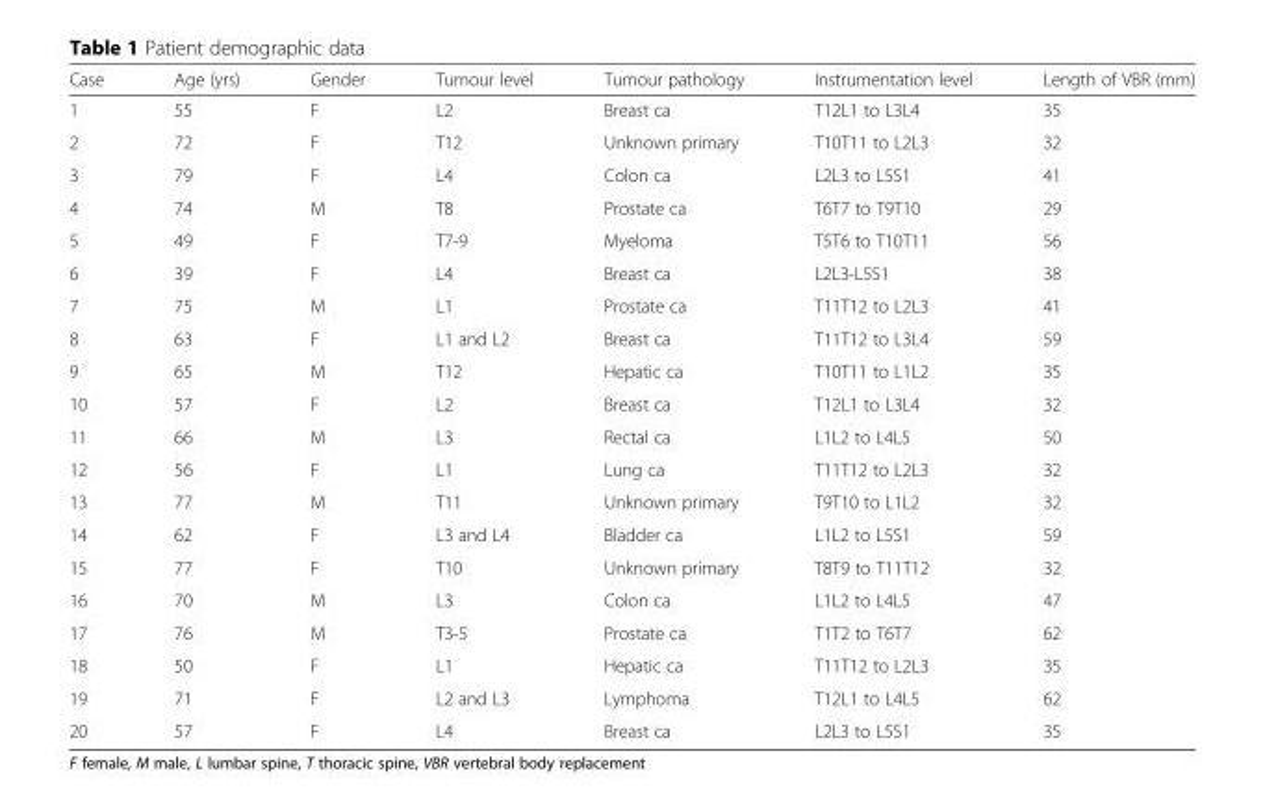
<table><thead><tr><td>Case</td><td>Age (yrs)</td><td>Gender</td><td>Tumour level</td><td>Tumour pathology</td><td>Instrumentation level</td><td>Length of VBR (mm)</td></tr></thead><tbody><tr><td>1</td><td>55</td><td>F</td><td>L2</td><td>Breast ca</td><td>T12L1 to L3L4</td><td>35</td></tr><tr><td>2</td><td>72</td><td>F</td><td>T12</td><td>Unknown primary</td><td>T10T11 to L2L3</td><td>32</td></tr><tr><td>3</td><td>79</td><td>F</td><td>L4</td><td>Colon ca</td><td>L2L3 to L5S1</td><td>41</td></tr><tr><td>4</td><td>74</td><td>M</td><td>T8</td><td>Prostate ca</td><td>T6T7 to T9T10</td><td>29</td></tr><tr><td>5</td><td>49</td><td>F</td><td>T7-9</td><td>Myeloma</td><td>T5T6 to T10T11</td><td>56</td></tr><tr><td>6</td><td>39</td><td>F</td><td>L4</td><td>Breast ca</td><td>L2L3-L5S1</td><td>38</td></tr><tr><td>7</td><td>75</td><td>M</td><td>L1</td><td>Prostate ca</td><td>T11T12 to L2L3</td><td>41</td></tr><tr><td>8</td><td>63</td><td>F</td><td>L1 and L2</td><td>Breast ca</td><td>T11T12 to L3L4</td><td>59</td></tr><tr><td>9</td><td>65</td><td>M</td><td>T12</td><td>Hepatic ca</td><td>T10T11 to L1L2</td><td>35</td></tr><tr><td>10</td><td>57</td><td>F</td><td>L2</td><td>Breast ca</td><td>T12L1 to L3L4</td><td>32</td></tr><tr><td>11</td><td>66</td><td>M</td><td>L3</td><td>Rectal ca</td><td>L1L2 to L4L5</td><td>50</td></tr><tr><td>12</td><td>56</td><td>F</td><td>L1</td><td>Lung ca</td><td>T11T12 to L2L3</td><td>32</td></tr><tr><td>13</td><td>77</td><td>M</td><td>T11</td><td>Unknown primary</td><td>T9T10 to L1L2</td><td>32</td></tr><tr><td>14</td><td>62</td><td>F</td><td>L3 and L4</td><td>Bladder ca</td><td>L1L2 to L5S1</td><td>59</td></tr><tr><td>15</td><td>77</td><td>F</td><td>T10</td><td>Unknown primary</td><td>T8T9 to T11T12</td><td>32</td></tr><tr><td>16</td><td>70</td><td>M</td><td>L3</td><td>Colon ca</td><td>L1L2 to L4L5</td><td>47</td></tr><tr><td>17</td><td>76</td><td>M</td><td>T3-5</td><td>Prostate ca</td><td>T1T2 to T6T7</td><td>62</td></tr><tr><td>18</td><td>50</td><td>F</td><td>L1</td><td>Hepatic ca</td><td>T11T12 to L2L3</td><td>35</td></tr><tr><td>19</td><td>71</td><td>F</td><td>L2 and L3</td><td>Lymphoma</td><td>T12L1 to L4L5</td><td>62</td></tr><tr><td>20</td><td>57</td><td>F</td><td>L4</td><td>Breast ca</td><td>L2L3 to L5S1</td><td>35</td></tr></tbody></table>